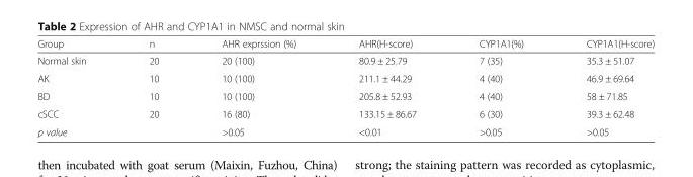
<table><thead><tr><td>Group</td><td>n</td><td>AHR exprssion (%)</td><td>AHR(H-score)</td><td>CYP1A1(%)</td><td>CYP1A1(H-score)</td></tr></thead><tbody><tr><td>Normal skin</td><td>20</td><td>20 (100)</td><td>80.9 ± 25.79</td><td>7 (35)</td><td>35.3 ± 51.07</td></tr><tr><td>AK</td><td>10</td><td>10 (100)</td><td>211.1 ± 44.29</td><td>4 (40)</td><td>46.9 ± 69.64</td></tr><tr><td>BD</td><td>10</td><td>10 (100)</td><td>205.8 ± 52.93</td><td>4 (40)</td><td>58 ± 71.85</td></tr><tr><td>cSCC</td><td>20</td><td>16 (80)</td><td>133.15 ± 86.67</td><td>6 (30)</td><td>39.3 ± 62.48</td></tr><tr><td>p value</td><td></td><td>&gt;0.05</td><td>&lt;0.01</td><td>&gt;0.05</td><td>&gt;0.05</td></tr></tbody></table>